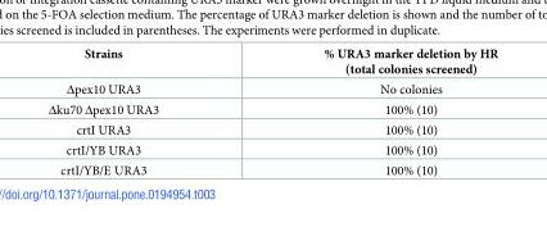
<table><thead><tr><td>Strains</td><td>% URA3 marker deletion by HR (total colonies screened)</td></tr></thead><tbody><tr><td>Δpex10 URA3</td><td>No colonies</td></tr><tr><td>Δku70 Δpex10 URA3</td><td>100% (10)</td></tr><tr><td>crtI URA3</td><td>100% (10)</td></tr><tr><td>crtI/YB URA3</td><td>100% (10)</td></tr><tr><td>crtI/YB/E URA3</td><td>100% (10)</td></tr></tbody></table>